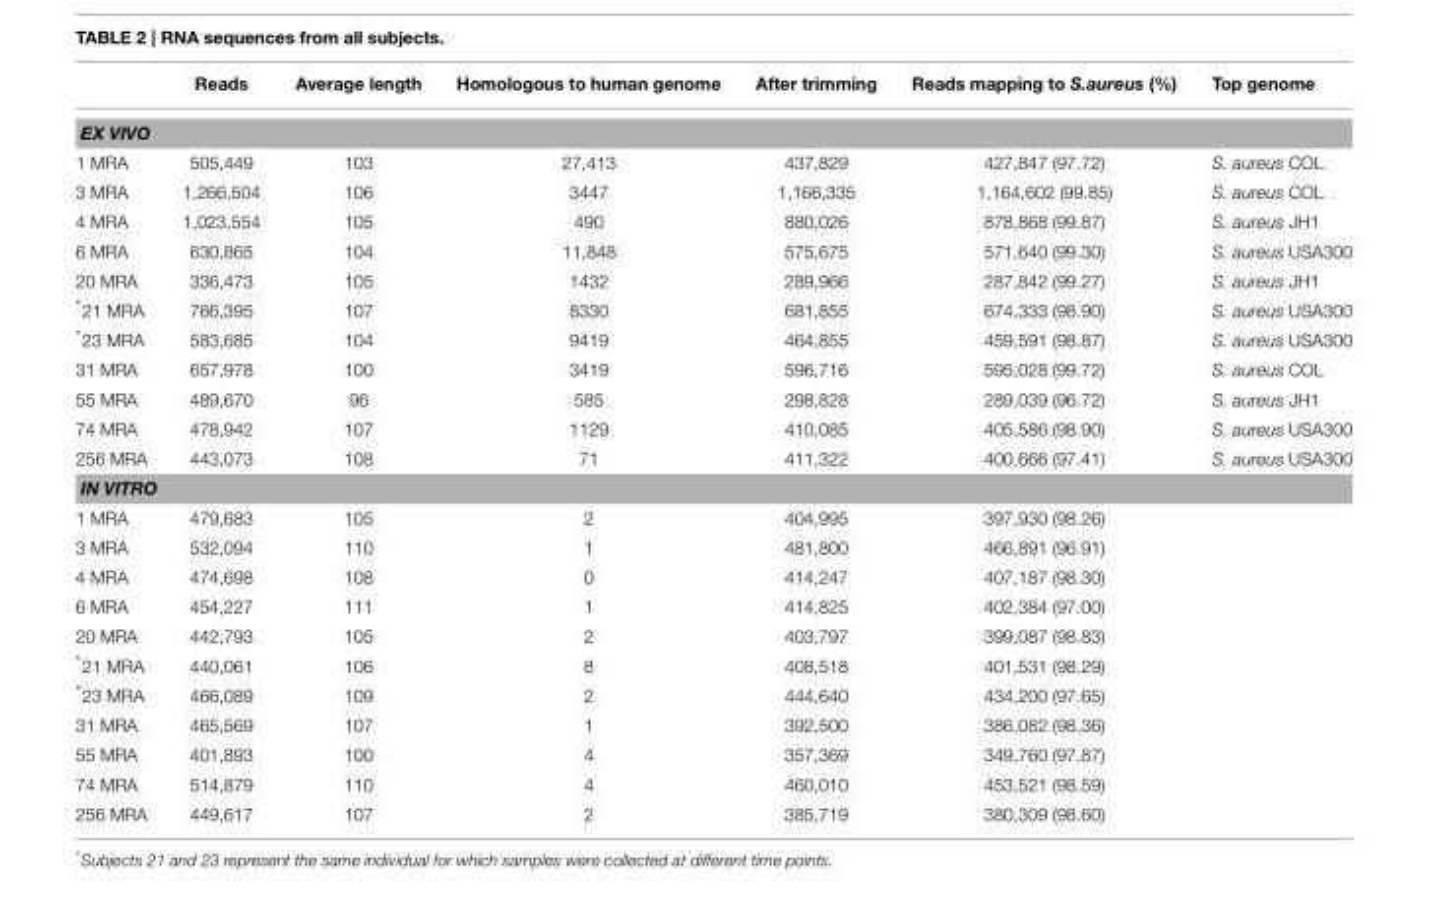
<table><thead><tr><td></td><td>Reads</td><td>Average length</td><td>Homologous to human genome</td><td>After trimming</td><td>Reads mapping to S.aureus (%)</td><td>Top genome</td></tr></thead><tbody><tr><td colspan="7">EX VIVO</td></tr><tr><td>1 MRA</td><td>505,449</td><td>103</td><td>27,413</td><td>437,829</td><td>427,847 (97.72)</td><td>S. aureus COL</td></tr><tr><td>3 MRA</td><td>1,266,504</td><td>106</td><td>3447</td><td>1,166,335</td><td>1,164,602 (99.85)</td><td>S. aureus COL</td></tr><tr><td>4 MRA</td><td>1,023,554</td><td>105</td><td>490</td><td>880,026</td><td>878,868 (99.87)</td><td>S. aureus JH1</td></tr><tr><td>6 MRA</td><td>630,865</td><td>104</td><td>11,848</td><td>575,675</td><td>571,640 (99.30)</td><td>S. aureus USA300</td></tr><tr><td>20 MRA</td><td>336,473</td><td>105</td><td>1432</td><td>289,966</td><td>287,842 (99.27)</td><td>S. aureus JH1</td></tr><tr><td>*21 MRA</td><td>766,395</td><td>107</td><td>8330</td><td>681,855</td><td>674,333 (98.90)</td><td>S. aureus USA300</td></tr><tr><td>*23 MRA</td><td>583,685</td><td>104</td><td>9419</td><td>464,855</td><td>459,591 (98.87)</td><td>S. aureus USA300</td></tr><tr><td>31 MRA</td><td>657,978</td><td>100</td><td>3419</td><td>596,716</td><td>595,028 (99.72)</td><td>S. aureus COL</td></tr><tr><td>55 MRA</td><td>489,670</td><td>96</td><td>585</td><td>298,828</td><td>289,039 (96.72)</td><td>S. aureus JH1</td></tr><tr><td>74 MRA</td><td>478,942</td><td>107</td><td>1129</td><td>410,085</td><td>405,586 (98.90)</td><td>S. aureus USA300</td></tr><tr><td>256 MRA</td><td>443,073</td><td>108</td><td>71</td><td>411,322</td><td>400,666 (97.41)</td><td>S. aureus USA300</td></tr><tr><td colspan="7">IN VITRO</td></tr><tr><td>1 MRA</td><td>479,683</td><td>105</td><td>2</td><td>404,995</td><td>397,930 (98.26)</td><td></td></tr><tr><td>3 MRA</td><td>532,094</td><td>110</td><td>1</td><td>481,800</td><td>466,891 (96.91)</td><td></td></tr><tr><td>4 MRA</td><td>474,698</td><td>108</td><td>0</td><td>414,247</td><td>407,187 (98.30)</td><td></td></tr><tr><td>6 MRA</td><td>454,227</td><td>111</td><td>1</td><td>414,825</td><td>402,384 (97.00)</td><td></td></tr><tr><td>20 MRA</td><td>442,793</td><td>105</td><td>2</td><td>403,797</td><td>399,087 (98.83)</td><td></td></tr><tr><td>*21 MRA</td><td>440,061</td><td>106</td><td>8</td><td>408,518</td><td>401,531 (98.29)</td><td></td></tr><tr><td>*23 MRA</td><td>466,089</td><td>109</td><td>2</td><td>444,640</td><td>434,200 (97.65)</td><td></td></tr><tr><td>31 MRA</td><td>465,569</td><td>107</td><td>1</td><td>392,500</td><td>386,082 (98.36)</td><td></td></tr><tr><td>55 MRA</td><td>401,893</td><td>100</td><td>4</td><td>357,369</td><td>349,760 (97.87)</td><td></td></tr><tr><td>74 MRA</td><td>514,879</td><td>110</td><td>4</td><td>460,010</td><td>453,521 (98.59)</td><td></td></tr><tr><td>256 MRA</td><td>449,617</td><td>107</td><td>2</td><td>385,719</td><td>380,309 (98.60)</td><td></td></tr></tbody></table>